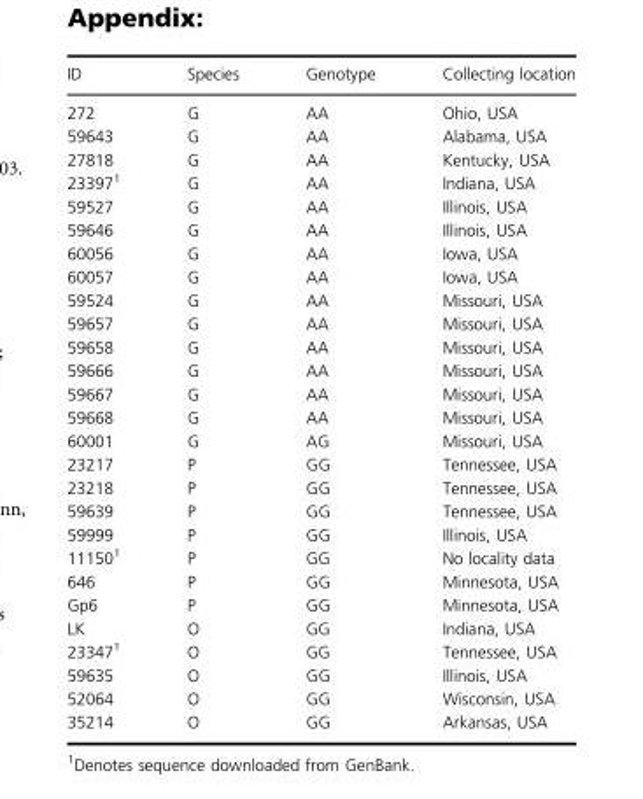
<table><thead><tr><td>ID</td><td>Species</td><td>Genotype</td><td>Collecting location</td></tr></thead><tbody><tr><td>272</td><td>G</td><td>AA</td><td>Ohio, USA</td></tr><tr><td>59643</td><td>G</td><td>AA</td><td>Alabama, USA</td></tr><tr><td>27818</td><td>G</td><td>AA</td><td>Kentucky, USA</td></tr><tr><td>233971</td><td>G</td><td>AA</td><td>Indiana, USA</td></tr><tr><td>59527</td><td>G</td><td>AA</td><td>Illinois, USA</td></tr><tr><td>59646</td><td>G</td><td>AA</td><td>Illinois, USA</td></tr><tr><td>60056</td><td>G</td><td>AA</td><td>Iowa, USA</td></tr><tr><td>60057</td><td>G</td><td>AA</td><td>Iowa, USA</td></tr><tr><td>59524</td><td>G</td><td>AA</td><td>Missouri, USA</td></tr><tr><td>59657</td><td>G</td><td>AA</td><td>Missouri, USA</td></tr><tr><td>59658</td><td>G</td><td>AA</td><td>Missouri, USA</td></tr><tr><td>59666</td><td>G</td><td>AA</td><td>Missouri, USA</td></tr><tr><td>59667</td><td>G</td><td>AA</td><td>Missouri, USA</td></tr><tr><td>59668</td><td>G</td><td>AA</td><td>Missouri, USA</td></tr><tr><td>60001</td><td>G</td><td>AG</td><td>Missouri, USA</td></tr><tr><td>23217</td><td>P</td><td>GG</td><td>Tennessee, USA</td></tr><tr><td>23218</td><td>P</td><td>GG</td><td>Tennessee, USA</td></tr><tr><td>59639</td><td>P</td><td>GG</td><td>Tennessee, USA</td></tr><tr><td>59999</td><td>P</td><td>GG</td><td>Illinois, USA</td></tr><tr><td>111501</td><td>P</td><td>GG</td><td>No locality data</td></tr><tr><td>646</td><td>P</td><td>GG</td><td>Minnesota, USA</td></tr><tr><td>Gp6</td><td>P</td><td>GG</td><td>Minnesota, USA</td></tr><tr><td>LK</td><td>O</td><td>GG</td><td>Indiana, USA</td></tr><tr><td>233471</td><td>O</td><td>GG</td><td>Tennessee, USA</td></tr><tr><td>59635</td><td>O</td><td>GG</td><td>Illinois, USA</td></tr><tr><td>52064</td><td>O</td><td>GG</td><td>Wisconsin, USA</td></tr><tr><td>35214</td><td>O</td><td>GG</td><td>Arkansas, USA</td></tr></tbody></table>